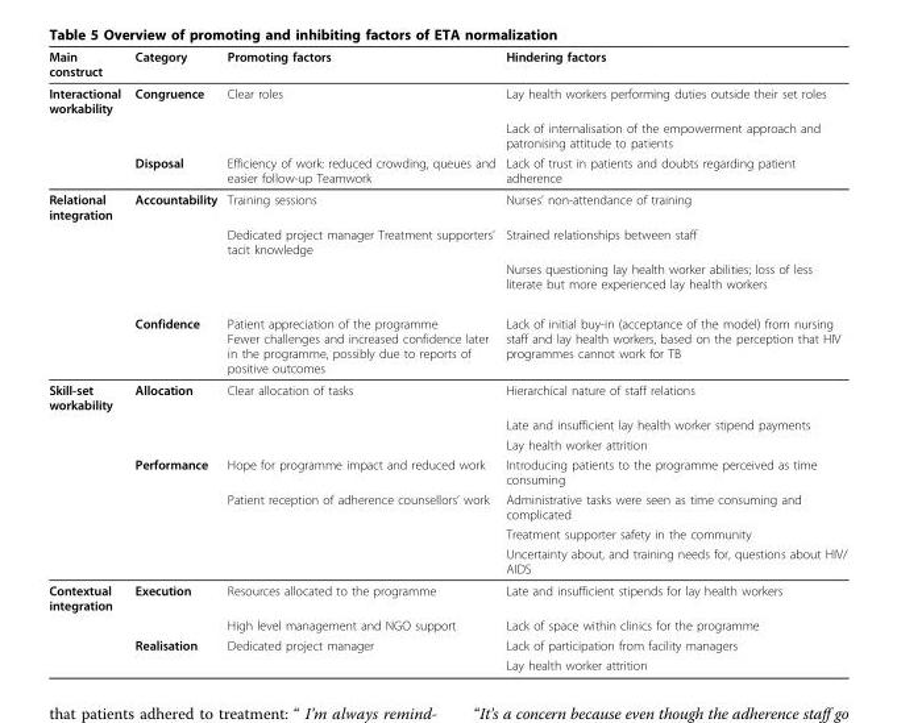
<table><thead><tr><td>Main construct</td><td>Category</td><td>Promoting factors</td><td>Hindering factors</td></tr></thead><tbody><tr><td rowspan="3">Interactional workability</td><td>Congruence</td><td>Clear roles</td><td>Lay health workers performing duties outside their set roles</td></tr><tr><td></td><td></td><td>Lack of internalisation of the empowerment approach and patronising attitude to patients</td></tr><tr><td>Disposal</td><td>Efficiency of work: reduced crowding, queues and easier follow-up Teamwork</td><td>Lack of trust in patients and doubts regarding patient adherence</td></tr><tr><td rowspan="4">Relational integration</td><td>Accountability</td><td>Training sessions</td><td>Nurses’ non-attendance of training</td></tr><tr><td></td><td>Dedicated project manager Treatment supporters’ tacit knowledge</td><td>Strained relationships between staff</td></tr><tr><td></td><td></td><td>Nurses questioning lay health worker abilities; loss of less literate but more experienced lay health workers</td></tr><tr><td>Confidence</td><td>Patient appreciation of the programme Fewer challenges and increased confidence later in the programme, possibly due to reports of positive outcomes</td><td>Lack of initial buy-in (acceptance of the model) from nursing staff and lay health workers, based on the perception that HIV programmes cannot work for TB</td></tr><tr><td rowspan="7">Skill-set workability</td><td>Allocation</td><td>Clear allocation of tasks</td><td>Hierarchical nature of staff relations</td></tr><tr><td></td><td></td><td>Late and insufficient lay health worker stipend payments</td></tr><tr><td></td><td></td><td>Lay health worker attrition</td></tr><tr><td>Performance</td><td>Hope for programme impact and reduced work</td><td>Introducing patients to the programme perceived as time consuming</td></tr><tr><td></td><td>Patient reception of adherence counsellors’ work</td><td>Administrative tasks were seen as time consuming and complicated</td></tr><tr><td></td><td></td><td>Treatment supporter safety in the community</td></tr><tr><td></td><td></td><td>Uncertainty about, and training needs for, questions about HIV/ AIDS</td></tr><tr><td rowspan="4">Contextual integration</td><td>Execution</td><td>Resources allocated to the programme</td><td>Late and insufficient stipends for lay health workers</td></tr><tr><td></td><td>High level management and NGO support</td><td>Lack of space within clinics for the programme</td></tr><tr><td>Realisation</td><td>Dedicated project manager</td><td>Lack of participation from facility managers</td></tr><tr><td></td><td></td><td>Lay health worker attrition</td></tr></tbody></table>